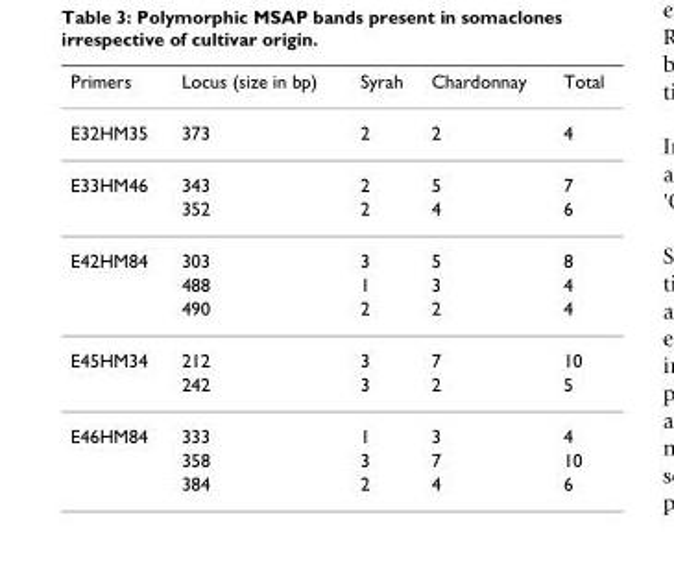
<table><thead><tr><td>Primers</td><td>Locus (size in bp)</td><td>Syrah</td><td>Chardonnay</td><td>Total</td></tr></thead><tbody><tr><td>E32HM35</td><td>373</td><td>2</td><td>2</td><td>4</td></tr><tr><td rowspan="2">E33HM46</td><td>343</td><td>2</td><td>5</td><td>7</td></tr><tr><td>352</td><td>2</td><td>4</td><td>6</td></tr><tr><td rowspan="3">E42HM84</td><td>303</td><td>3</td><td>5</td><td>8</td></tr><tr><td>488</td><td>1</td><td>3</td><td>4</td></tr><tr><td>490</td><td>2</td><td>2</td><td>4</td></tr><tr><td rowspan="2">E45HM34</td><td>212</td><td>3</td><td>7</td><td>10</td></tr><tr><td>242</td><td>3</td><td>2</td><td>5</td></tr><tr><td rowspan="3">E46HM84</td><td>333</td><td>1</td><td>3</td><td>4</td></tr><tr><td>358</td><td>3</td><td>7</td><td>10</td></tr><tr><td>384</td><td>2</td><td>4</td><td>6</td></tr></tbody></table>